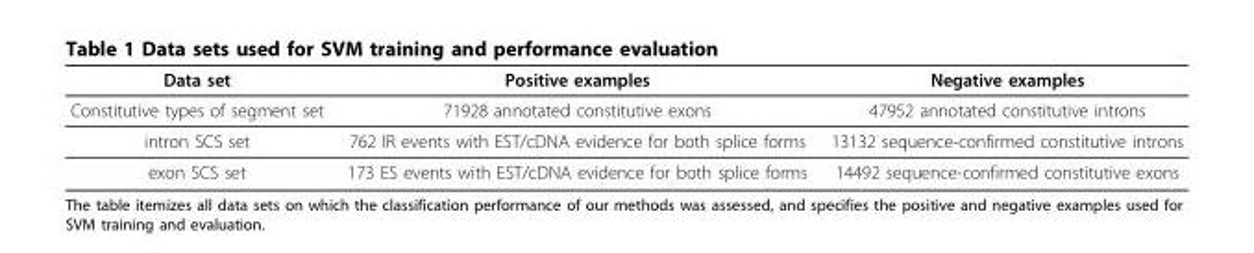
<table><thead><tr><td>Data set</td><td>Positive examples</td><td>Negative examples</td></tr></thead><tbody><tr><td>Constitutive types of segment set</td><td>71928 annotated constitutive exons</td><td>47952 annotated constitutive introns</td></tr><tr><td>intron SCS set</td><td>762 IR events with EST/cDNA evidence for both splice forms</td><td>13132 sequence-confirmed constitutive introns</td></tr><tr><td>exon SCS set</td><td>173 ES events with EST/cDNA evidence for both splice forms</td><td>14492 sequence-confirmed constitutive exons</td></tr></tbody></table>